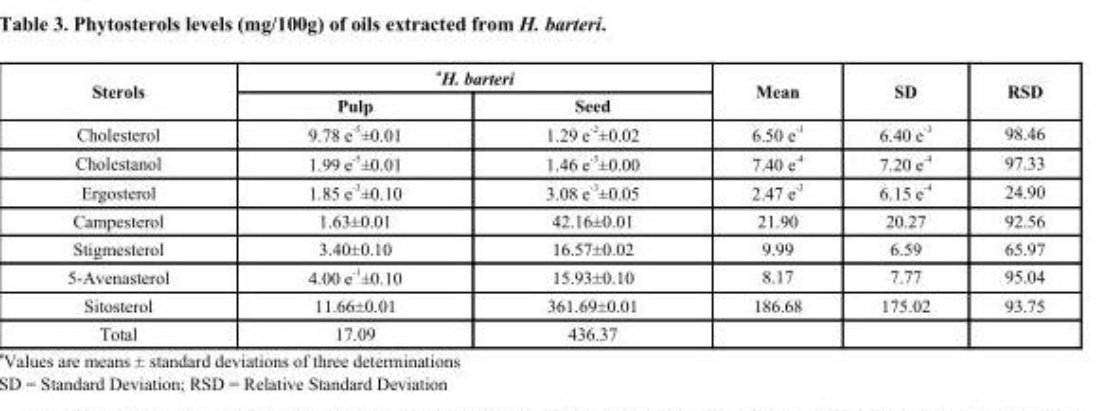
<table><thead><tr><td rowspan="2">Sterols</td><td colspan="2"><sup>a</sup>H. barteri</td><td rowspan="2">Mean</td><td rowspan="2">SD</td><td rowspan="2">RSD</td></tr><tr><td>Pulp</td><td>Seed</td></tr></thead><tbody><tr><td>Cholesterol</td><td>9.78 e <sup>-5</sup>±0.01</td><td>1.29 e <sup>-2</sup>±0.02</td><td>6.50 e <sup>-3</sup></td><td>6.40 e <sup>-3</sup></td><td>98.46</td></tr><tr><td>Cholestanol</td><td>1.99 e <sup>-5</sup>±0.01</td><td>1.46 e <sup>-3</sup>±0.00</td><td>7.40 e <sup>-4</sup></td><td>7.20 e <sup>-4</sup></td><td>97.33</td></tr><tr><td>Ergosterol</td><td>1.85 e <sup>-3</sup>±0.10</td><td>3.08 e <sup>-3</sup>±0.05</td><td>2.47 e <sup>-3</sup></td><td>6.15 e <sup>-4</sup></td><td>24.90</td></tr><tr><td>Campesterol</td><td>1.63±0.01</td><td>42.16±0.01</td><td>21.90</td><td>20.27</td><td>92.56</td></tr><tr><td>Stigmesterol</td><td>3.40±0.10</td><td>16.57±0.02</td><td>9.99</td><td>6.59</td><td>65.97</td></tr><tr><td>5-Avenasterol</td><td>4.00 e <sup>-1</sup>±0.10</td><td>15.93±0.10</td><td>8.17</td><td>7.77</td><td>95.04</td></tr><tr><td>Sitosterol</td><td>11.66±0.01</td><td>361.69±0.01</td><td>186.68</td><td>175.02</td><td>93.75</td></tr><tr><td>Total</td><td>17.09</td><td>436.37</td><td></td><td></td><td></td></tr></tbody></table>